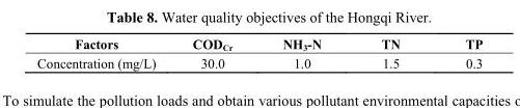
<table><thead><tr><td>Factors</td><td>COD<sub>Cr</sub></td><td>NH<sub>3</sub>-N</td><td>TN</td><td>TP</td></tr></thead><tbody><tr><td>Concentration (mg/L)</td><td>30.0</td><td>1.0</td><td>1.5</td><td>0.3</td></tr></tbody></table>